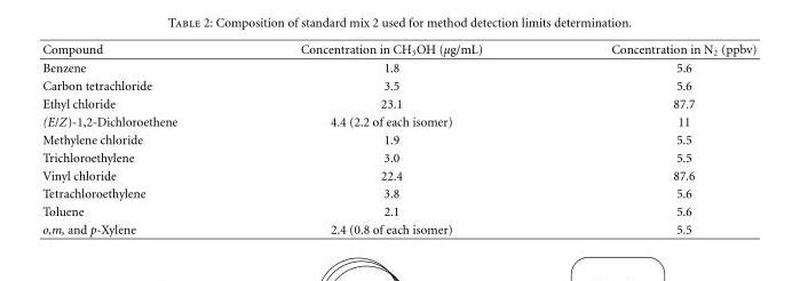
<table><thead><tr><td>Compound</td><td>Concentration in CH<sub>3</sub>OH (μg/mL)</td><td>Concentration in N<sub>2</sub> (ppbv)</td></tr></thead><tbody><tr><td>Benzene</td><td>1.8</td><td>5.6</td></tr><tr><td>Carbon tetrachloride</td><td>3.5</td><td>5.6</td></tr><tr><td>Ethyl chloride</td><td>23.1</td><td>87.7</td></tr><tr><td>(E/Z)-1,2-Dichloroethene</td><td>4.4 (2.2 of each isomer)</td><td>11</td></tr><tr><td>Methylene chloride</td><td>1.9</td><td>5.5</td></tr><tr><td>Trichloroethylene</td><td>3.0</td><td>5.5</td></tr><tr><td>Vinyl chloride</td><td>22.4</td><td>87.6</td></tr><tr><td>Tetrachloroethylene</td><td>3.8</td><td>5.6</td></tr><tr><td>Toluene</td><td>2.1</td><td>5.6</td></tr><tr><td>o,m, and p-Xylene</td><td>2.4 (0.8 of each isomer)</td><td>5.5</td></tr></tbody></table>